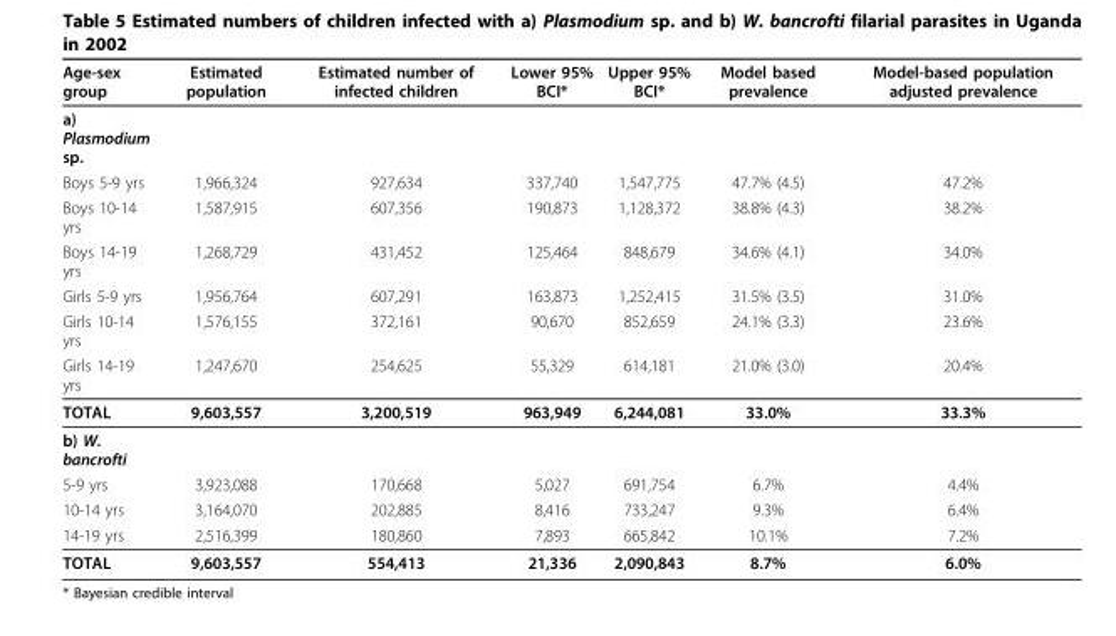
<table><thead><tr><td>Age-sex group</td><td>Estimated population</td><td>Estimated number of infected children</td><td>Lower 95% BCI*</td><td>Upper 95% BCI*</td><td>Model based prevalence</td><td>Model-based population adjusted prevalence</td></tr></thead><tbody><tr><td colspan="7">a) Plasmodium sp.</td></tr><tr><td>Boys 5-9 yrs</td><td>1,966,324</td><td>927,634</td><td>337,740</td><td>1,547,775</td><td>47.7% (4.5)</td><td>47.2%</td></tr><tr><td>Boys 10-14 yrs</td><td>1,587,915</td><td>607,356</td><td>190,873</td><td>1,128,372</td><td>38.8% (4.3)</td><td>38.2%</td></tr><tr><td>Boys 14-19 yrs</td><td>1,268,729</td><td>431,452</td><td>125,464</td><td>848,679</td><td>34.6% (4.1)</td><td>34.0%</td></tr><tr><td>Girls 5-9 yrs</td><td>1,956,764</td><td>607,291</td><td>163,873</td><td>1,252,415</td><td>31.5% (3.5)</td><td>31.0%</td></tr><tr><td>Girls 10-14 yrs</td><td>1,576,155</td><td>372,161</td><td>90,670</td><td>852,659</td><td>24.1% (3.3)</td><td>23.6%</td></tr><tr><td>Girls 14-19 yrs</td><td>1,247,670</td><td>254,625</td><td>55,329</td><td>614,181</td><td>21.0% (3.0)</td><td>20.4%</td></tr><tr><td>TOTAL</td><td>9,603,557</td><td>3,200,519</td><td>963,949</td><td>6,244,081</td><td>33.0%</td><td>33.3%</td></tr><tr><td colspan="7">b) W. bancrofti</td></tr><tr><td>5-9 yrs</td><td>3,923,088</td><td>170,668</td><td>5,027</td><td>691,754</td><td>6.7%</td><td>4.4%</td></tr><tr><td>10-14 yrs</td><td>3,164,070</td><td>202,885</td><td>8,416</td><td>733,247</td><td>9.3%</td><td>6.4%</td></tr><tr><td>14-19 yrs</td><td>2,516,399</td><td>180,860</td><td>7,893</td><td>665,842</td><td>10.1%</td><td>7.2%</td></tr><tr><td>TOTAL</td><td>9,603,557</td><td>554,413</td><td>21,336</td><td>2,090,843</td><td>8.7%</td><td>6.0%</td></tr></tbody></table>